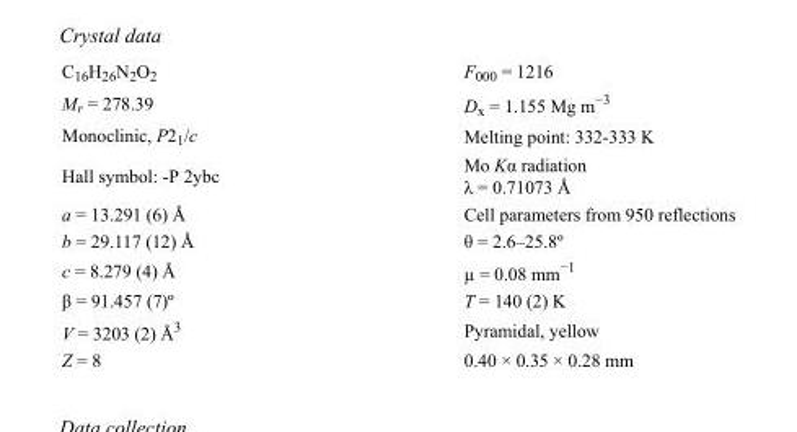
<table><tbody><tr><td>C<sub>16</sub>H<sub>26</sub>N<sub>2</sub>O<sub>2</sub></td><td>F<sub>000</sub> = 1216</td></tr><tr><td>M<sub>r</sub> = 278.39</td><td>D<sub>x</sub> = 1.155 Mg m<sup>−3</sup></td></tr><tr><td>Monoclinic, P2<sub>1</sub>/c</td><td>Melting point= 332-333 K</td></tr><tr><td>Hall symbol: -P 2ybc</td><td>Mo Kα radiation λ = 0.71073 Å</td></tr><tr><td>a = 13.291 (6) Å</td><td>Cell parameters from 950 reflections</td></tr><tr><td>b = 29.117 (12) Å</td><td>θ = 2.6–25.8º</td></tr><tr><td>c = 8.279 (4) Å</td><td>µ = 0.08 mm<sup>−1</sup></td></tr><tr><td>β = 91.457 (7)º</td><td>T = 140 (2) K</td></tr><tr><td>V = 3203 (2) Å<sup>3</sup></td><td>Pyramidal, yellow</td></tr><tr><td>Z = 8</td><td>0.40 × 0.35 × 0.28 mm</td></tr></tbody></table>